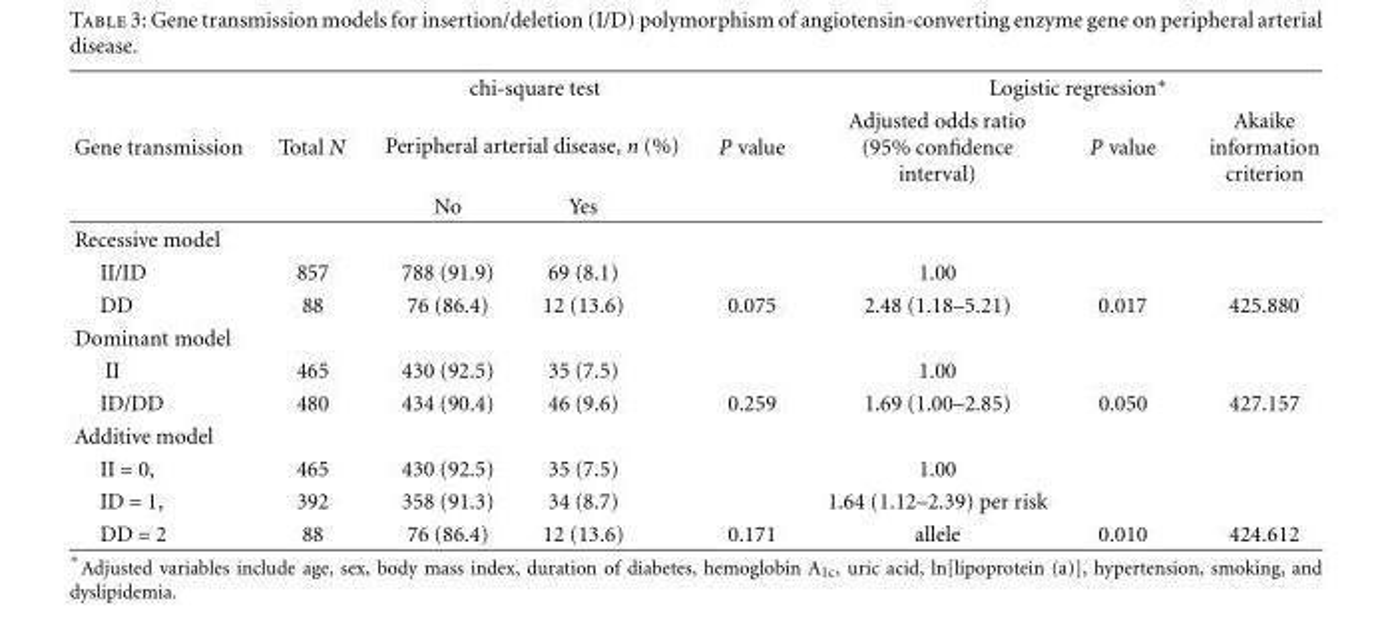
<table><thead><tr><td rowspan="3">Gene transmission</td><td colspan="4">chi-square test</td><td colspan="3">Logistic regression∗</td></tr><tr><td rowspan="2">Total N</td><td colspan="2">Peripheral arterial disease, n (%)</td><td rowspan="2">P value</td><td rowspan="2">Adjusted odds ratio (95% confidence interval)</td><td rowspan="2">P value</td><td rowspan="2">Akaike information criterion</td></tr><tr><td>No</td><td>Yes</td></tr></thead><tbody><tr><td colspan="8">Recessive model</td></tr><tr><td>II/ID</td><td>857</td><td>788 (91.9)</td><td>69 (8.1)</td><td></td><td>1.00</td><td></td><td></td></tr><tr><td>DD</td><td>88</td><td>76 (86.4)</td><td>12 (13.6)</td><td>0.075</td><td>2.48 (1.18–5.21)</td><td>0.017</td><td>425.880</td></tr><tr><td colspan="8">Dominant model</td></tr><tr><td>II</td><td>465</td><td>430 (92.5)</td><td>35 (7.5)</td><td></td><td>1.00</td><td></td><td></td></tr><tr><td>ID/DD</td><td>480</td><td>434 (90.4)</td><td>46 (9.6)</td><td>0.259</td><td>1.69 (1.00–2.85)</td><td>0.050</td><td>427.157</td></tr><tr><td colspan="8">Additive model</td></tr><tr><td>II = 0,</td><td>465</td><td>430 (92.5)</td><td>35 (7.5)</td><td></td><td>1.00</td><td></td><td></td></tr><tr><td>ID = 1,</td><td>392</td><td>358 (91.3)</td><td>34 (8.7)</td><td></td><td>1.64 (1.12–2.39) per risk</td><td></td><td></td></tr><tr><td>DD = 2</td><td>88</td><td>76 (86.4)</td><td>12 (13.6)</td><td>0.171</td><td>allele</td><td>0.010</td><td>424.612</td></tr></tbody></table>